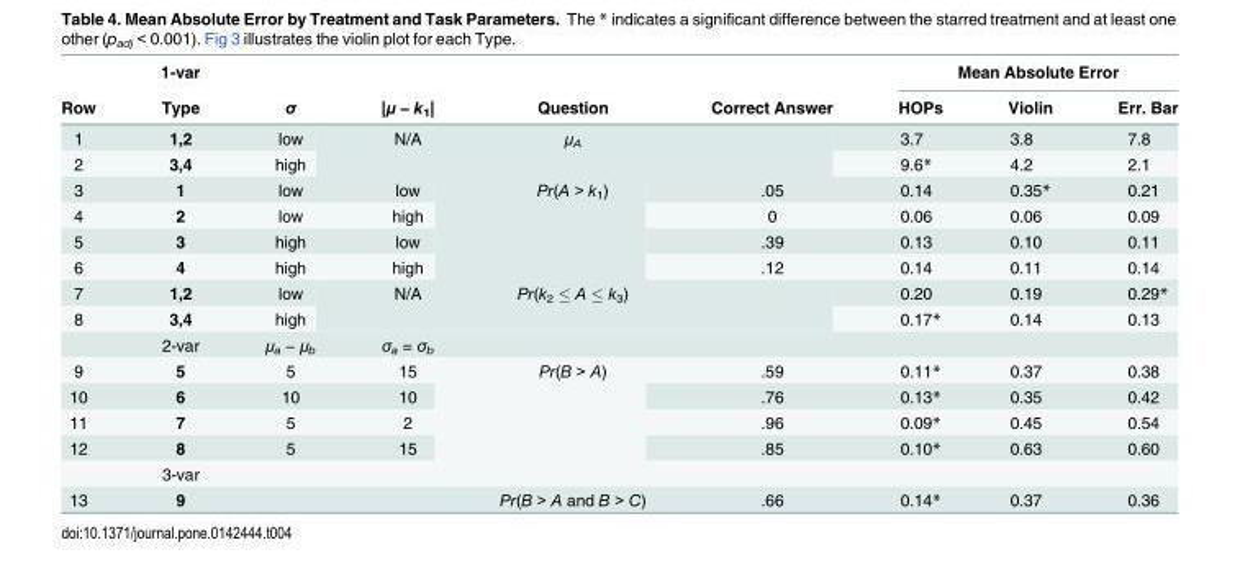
<table><thead><tr><td rowspan="2">Row</td><td rowspan="2">1-var Type</td><td rowspan="2">σ</td><td rowspan="2">|μ − k<sub>1</sub>|</td><td rowspan="2">Question</td><td rowspan="2">Correct Answer</td><td colspan="3">Mean Absolute Error</td></tr><tr><td>HOPs</td><td>Violin</td><td>Err. Bar</td></tr></thead><tbody><tr><td>1</td><td>1,2</td><td>low</td><td rowspan="2">N/A</td><td rowspan="2">μ<sub>A</sub></td><td rowspan="2"></td><td>3.7</td><td>3.8</td><td>7.8</td></tr><tr><td>2</td><td>3,4</td><td>high</td><td>9.6*</td><td>4.2</td><td>2.1</td></tr><tr><td>3</td><td>1</td><td>low</td><td>low</td><td rowspan="4">Pr(A &gt; k<sub>1</sub>)</td><td>.05</td><td>0.14</td><td>0.35*</td><td>0.21</td></tr><tr><td>4</td><td>2</td><td>low</td><td>high</td><td>0</td><td>0.06</td><td>0.06</td><td>0.09</td></tr><tr><td>5</td><td>3</td><td>high</td><td>low</td><td>.39</td><td>0.13</td><td>0.10</td><td>0.11</td></tr><tr><td>6</td><td>4</td><td>high</td><td>high</td><td>.12</td><td>0.14</td><td>0.11</td><td>0.14</td></tr><tr><td>7</td><td>1,2</td><td>low</td><td rowspan="2">N/A</td><td rowspan="2">Pr(k<sub>2</sub> ≤ A ≤ k<sub>3</sub>)</td><td rowspan="2"></td><td>0.20</td><td>0.19</td><td>0.29*</td></tr><tr><td rowspan="2">8</td><td>3,4</td><td>high</td><td>0.17*</td><td>0.14</td><td>0.13</td></tr><tr><td>2-var</td><td>μ<sub>a</sub> − μ<sub>b</sub></td><td>σ<sub>a</sub> = σ<sub>b</sub></td><td></td><td></td><td></td><td></td><td></td></tr><tr><td>9</td><td>5</td><td>5</td><td>15</td><td rowspan="4">Pr(B &gt; A)</td><td>.59</td><td>0.11*</td><td>0.37</td><td>0.38</td></tr><tr><td>10</td><td>6</td><td>10</td><td>10</td><td>.76</td><td>0.13*</td><td>0.35</td><td>0.42</td></tr><tr><td>11</td><td>7</td><td>5</td><td>2</td><td>.96</td><td>0.09*</td><td>0.45</td><td>0.54</td></tr><tr><td rowspan="2">12</td><td>8</td><td>5</td><td>15</td><td>.85</td><td>0.10*</td><td>0.63</td><td>0.60</td></tr><tr><td>3-var</td><td></td><td></td><td></td><td></td><td></td><td></td><td></td></tr><tr><td>13</td><td>9</td><td></td><td></td><td>Pr(B &gt; A and B &gt; C)</td><td>.66</td><td>0.14*</td><td>0.37</td><td>0.36</td></tr></tbody></table>